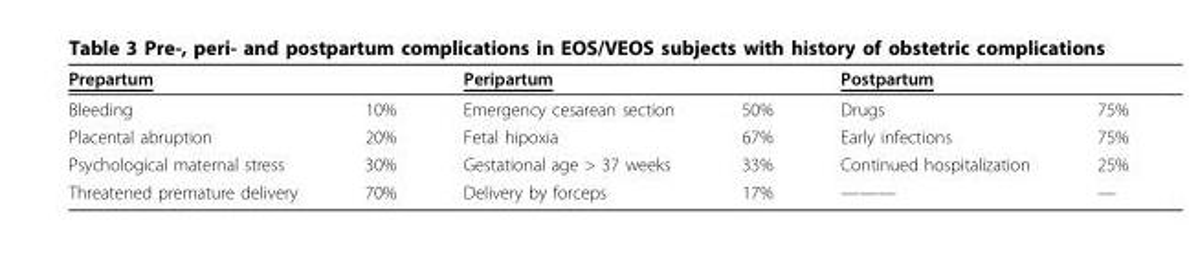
<table><thead><tr><td>Prepartum</td><td></td><td>Peripartum</td><td></td><td>Postpartum</td><td></td></tr></thead><tbody><tr><td>Bleeding</td><td>10%</td><td>Emergency cesarean section</td><td>50%</td><td>Drugs</td><td>75%</td></tr><tr><td>Placental abruption</td><td>20%</td><td>Fetal hipoxia</td><td>67%</td><td>Early infections</td><td>75%</td></tr><tr><td>Psychological maternal stress</td><td>30%</td><td>Gestational age &gt; 37 weeks</td><td>33%</td><td>Continued hospitalization</td><td>25%</td></tr><tr><td>Threatened premature delivery</td><td>70%</td><td>Delivery by forceps</td><td>17%</td><td>———</td><td>—</td></tr></tbody></table>